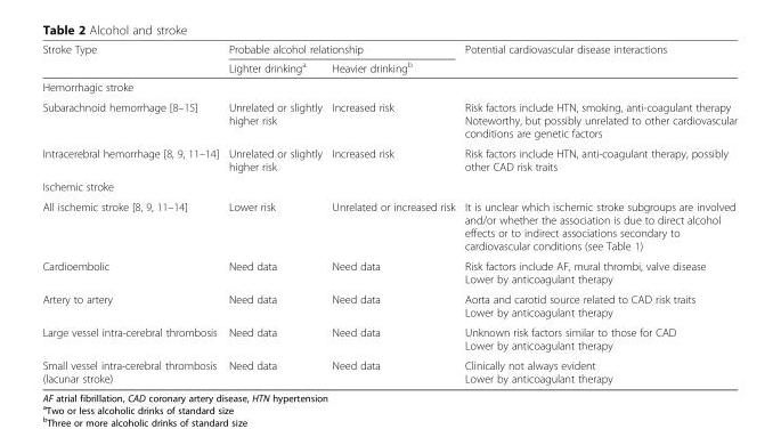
<table><thead><tr><td rowspan="2">Stroke Type</td><td colspan="2">Probable alcohol relationship</td><td rowspan="2">Potential cardiovascular disease interactions</td></tr><tr><td>Lighter drinking<sup>a</sup></td><td>Heavier drinking<sup>b</sup></td></tr></thead><tbody><tr><td colspan="4">Hemorrhagic stroke</td></tr><tr><td>Subarachnoid hemorrhage [8–15]</td><td>Unrelated or slightly higher risk</td><td>Increased risk</td><td>Risk factors include HTN, smoking, anti-coagulant therapy Noteworthy, but possibly unrelated to other cardiovascular conditions are genetic factors</td></tr><tr><td>Intracerebral hemorrhage [8, 9, 11–14]</td><td>Unrelated or slightly higher risk</td><td>Increased risk</td><td>Risk factors include HTN, anti-coagulant therapy, possibly other CAD risk traits</td></tr><tr><td colspan="4">Ischemic stroke</td></tr><tr><td>All ischemic stroke [8, 9, 11–14]</td><td>Lower risk</td><td>Unrelated or increased risk</td><td>It is unclear which ischemic stroke subgroups are involved and/or whether the association is due to direct alcohol effects or to indirect associations secondary to cardiovascular conditions (see Table 1)</td></tr><tr><td>Cardioembolic</td><td>Need data</td><td>Need data</td><td>Risk factors include AF, mural thrombi, valve disease Lower by anticoagulant therapy</td></tr><tr><td>Artery to artery</td><td>Need data</td><td>Need data</td><td>Aorta and carotid source related to CAD risk traits Lower by anticoagulant therapy</td></tr><tr><td>Large vessel intra-cerebral thrombosis</td><td>Need data</td><td>Need data</td><td>Unknown risk factors similar to those for CAD Lower by anticoagulant therapy</td></tr><tr><td>Small vessel intra-cerebral thrombosis (lacunar stroke)</td><td>Need data</td><td>Need data</td><td>Clinically not always evident Lower by anticoagulant therapy</td></tr></tbody></table>